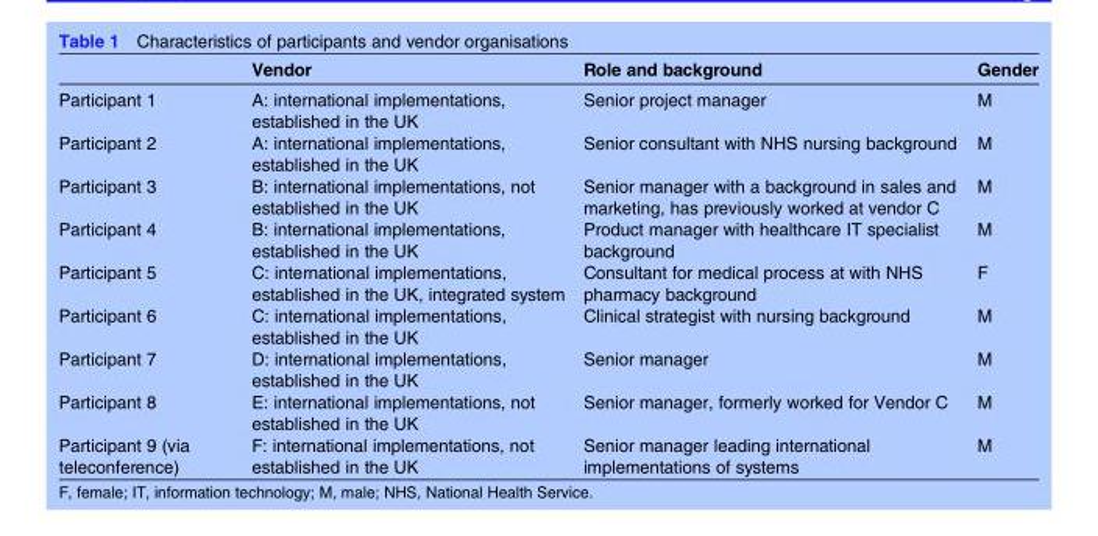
<table><thead><tr><td></td><td>Vendor</td><td>Role and background</td><td>Gender</td></tr></thead><tbody><tr><td>Participant 1</td><td>A: international implementations, established in the UK</td><td>Senior project manager</td><td>M</td></tr><tr><td>Participant 2</td><td>A: international implementations, established in the UK</td><td>Senior consultant with NHS nursing background</td><td>M</td></tr><tr><td>Participant 3</td><td>B: international implementations, not established in the UK</td><td>Senior manager with a background in sales and marketing, has previously worked at vendor C</td><td>M</td></tr><tr><td>Participant 4</td><td>B: international implementations, established in the UK</td><td>Product manager with healthcare IT specialist background</td><td>M</td></tr><tr><td>Participant 5</td><td>C: international implementations, established in the UK, integrated system</td><td>Consultant for medical process at with NHS pharmacy background</td><td>F</td></tr><tr><td>Participant 6</td><td>C: international implementations, established in the UK</td><td>Clinical strategist with nursing background</td><td>M</td></tr><tr><td>Participant 7</td><td>D: international implementations, established in the UK</td><td>Senior manager</td><td>M</td></tr><tr><td>Participant 8</td><td>E: international implementations, not established in the UK</td><td>Senior manager, formerly worked for Vendor C</td><td>M</td></tr><tr><td>Participant 9 (via teleconference)</td><td>F: international implementations, not established in the UK</td><td>Senior manager leading international implementations of systems</td><td>M</td></tr></tbody></table>